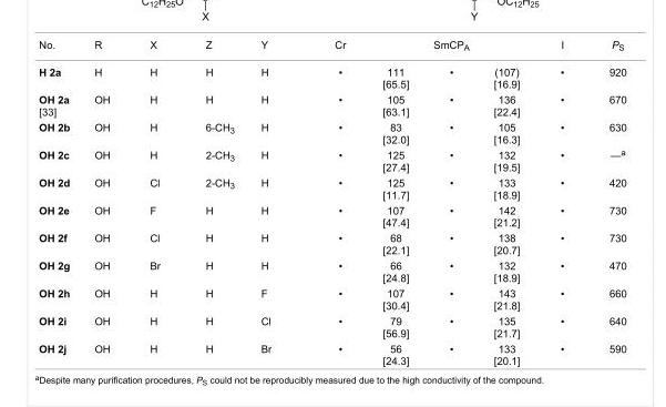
<table><tbody><tr><td>No.</td><td>R</td><td>X</td><td>Z</td><td>Y</td><td>Cr</td><td></td><td>SmCP<sub>A</sub></td><td></td><td>I</td><td>P<sub>S</sub></td></tr><tr><td>H 2a</td><td>H</td><td>H</td><td>H</td><td>H</td><td>•</td><td>111 [65.5]</td><td>•</td><td>(107) [16.9]</td><td>•</td><td>920</td></tr><tr><td>OH 2a [33]</td><td>OH</td><td>H</td><td>H</td><td>H</td><td>•</td><td>105 [63.1]</td><td>•</td><td>136 [22.4]</td><td>•</td><td>670</td></tr><tr><td>OH 2b</td><td>OH</td><td>H</td><td>6-CH<sub>3</sub></td><td>H</td><td>•</td><td>83 [32.0]</td><td>•</td><td>105 [16.3]</td><td>•</td><td>630</td></tr><tr><td>OH 2c</td><td>OH</td><td>H</td><td>2-CH<sub>3</sub></td><td>H</td><td>•</td><td>125 [27.4]</td><td>•</td><td>132 [19.5]</td><td>•</td><td>—<sup>a</sup></td></tr><tr><td>OH 2d</td><td>OH</td><td>Cl</td><td>2-CH<sub>3</sub></td><td>H</td><td>•</td><td>125 [11.7]</td><td>•</td><td>133 [18.9]</td><td>•</td><td>420</td></tr><tr><td>OH 2e</td><td>OH</td><td>F</td><td>H</td><td>H</td><td>•</td><td>107 [47.4]</td><td>•</td><td>142 [21.2]</td><td>•</td><td>730</td></tr><tr><td>OH 2f</td><td>OH</td><td>Cl</td><td>H</td><td>H</td><td>•</td><td>68 [22.1]</td><td>•</td><td>138 [20.7]</td><td>•</td><td>730</td></tr><tr><td>OH 2g</td><td>OH</td><td>Br</td><td>H</td><td>H</td><td>•</td><td>66 [24.8]</td><td>•</td><td>132 [18.9]</td><td>•</td><td>470</td></tr><tr><td>OH 2h</td><td>OH</td><td>H</td><td>H</td><td>F</td><td>•</td><td>107 [30.4]</td><td>•</td><td>143 [21.8]</td><td>•</td><td>660</td></tr><tr><td>OH 2i</td><td>OH</td><td>H</td><td>H</td><td>Cl</td><td>•</td><td>79 [56.9]</td><td>•</td><td>135 [21.7]</td><td>•</td><td>640</td></tr><tr><td>OH 2j</td><td>OH</td><td>H</td><td>H</td><td>Br</td><td>•</td><td>56 [24.3]</td><td>•</td><td>133 [20.1]</td><td>•</td><td>590</td></tr></tbody></table>